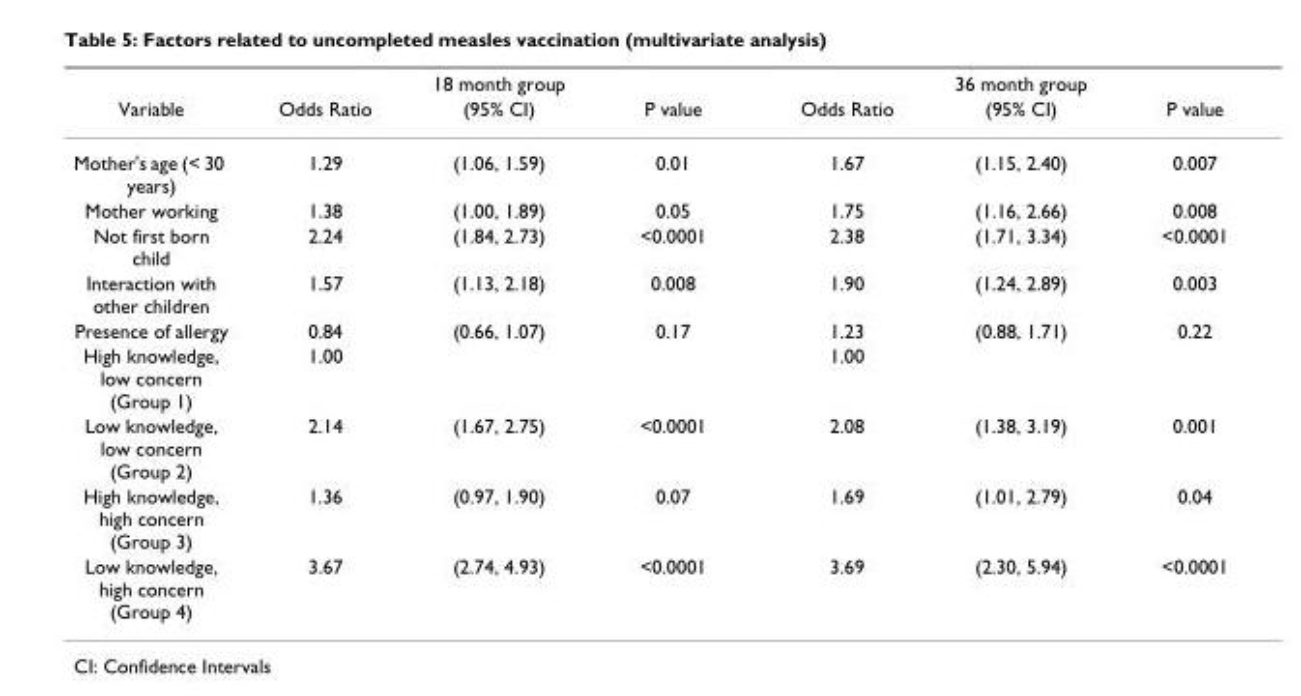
<table><thead><tr><td rowspan="2">Variable</td><td colspan="3">18 month group</td><td colspan="3">36 month group</td></tr><tr><td>Odds Ratio</td><td>(95% CI)</td><td>P value</td><td>Odds Ratio</td><td>(95% CI)</td><td>P value</td></tr></thead><tbody><tr><td>Mother&#x27;s age (&lt; 30 years)</td><td>1.29</td><td>(1.06, 1.59)</td><td>0.01</td><td>1.67</td><td>(1.15, 2.40)</td><td>0.007</td></tr><tr><td>Mother working</td><td>1.38</td><td>(1.00, 1.89)</td><td>0.05</td><td>1.75</td><td>(1.16, 2.66)</td><td>0.008</td></tr><tr><td>Not first born child</td><td>2.24</td><td>(1.84, 2.73)</td><td>&lt;0.0001</td><td>2.38</td><td>(1.71, 3.34)</td><td>&lt;0.0001</td></tr><tr><td>Interaction with other children</td><td>1.57</td><td>(1.13, 2.18)</td><td>0.008</td><td>1.90</td><td>(1.24, 2.89)</td><td>0.003</td></tr><tr><td>Presence of allergy</td><td>0.84</td><td>(0.66, 1.07)</td><td>0.17</td><td>1.23</td><td>(0.88, 1.71)</td><td>0.22</td></tr><tr><td>High knowledge, low concern (Group 1)</td><td>1.00</td><td></td><td></td><td>1.00</td><td></td><td></td></tr><tr><td>Low knowledge, low concern (Group 2)</td><td>2.14</td><td>(1.67, 2.75)</td><td>&lt;0.0001</td><td>2.08</td><td>(1.38, 3.19)</td><td>0.001</td></tr><tr><td>High knowledge, high concern (Group 3)</td><td>1.36</td><td>(0.97, 1.90)</td><td>0.07</td><td>1.69</td><td>(1.01, 2.79)</td><td>0.04</td></tr><tr><td>Low knowledge, high concern (Group 4)</td><td>3.67</td><td>(2.74, 4.93)</td><td>&lt;0.0001</td><td>3.69</td><td>(2.30, 5.94)</td><td>&lt;0.0001</td></tr></tbody></table>